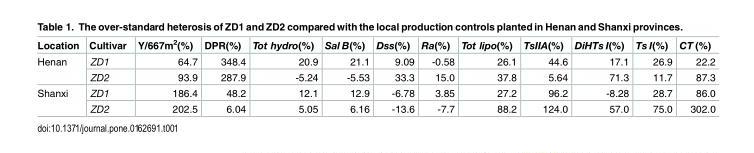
<table><thead><tr><td>Location</td><td>Cultivar</td><td>Y/667m<sup>2</sup>(%)</td><td>DPR(%)</td><td>Tot hydro(%)</td><td>Sal B(%)</td><td>Dss(%)</td><td>Ra(%)</td><td>Tot lipo(%)</td><td>TsIIA(%)</td><td>DiHTs I(%)</td><td>Ts I(%)</td><td>CT (%)</td></tr></thead><tbody><tr><td rowspan="2">Henan</td><td>ZD1</td><td>64.7</td><td>348.4</td><td>20.9</td><td>21.1</td><td>9.09</td><td>-0.58</td><td>26.1</td><td>44.6</td><td>17.1</td><td>26.9</td><td>22.2</td></tr><tr><td>ZD2</td><td>93.9</td><td>287.9</td><td>-5.24</td><td>-5.53</td><td>33.3</td><td>15.0</td><td>37.8</td><td>5.64</td><td>71.3</td><td>11.7</td><td>87.3</td></tr><tr><td rowspan="2">Shanxi</td><td>ZD1</td><td>186.4</td><td>48.2</td><td>12.1</td><td>12.9</td><td>-6.78</td><td>3.85</td><td>27.2</td><td>96.2</td><td>-8.28</td><td>28.7</td><td>86.0</td></tr><tr><td>ZD2</td><td>202.5</td><td>6.04</td><td>5.05</td><td>6.16</td><td>-13.6</td><td>-7.7</td><td>88.2</td><td>124.0</td><td>57.0</td><td>75.0</td><td>302.0</td></tr></tbody></table>